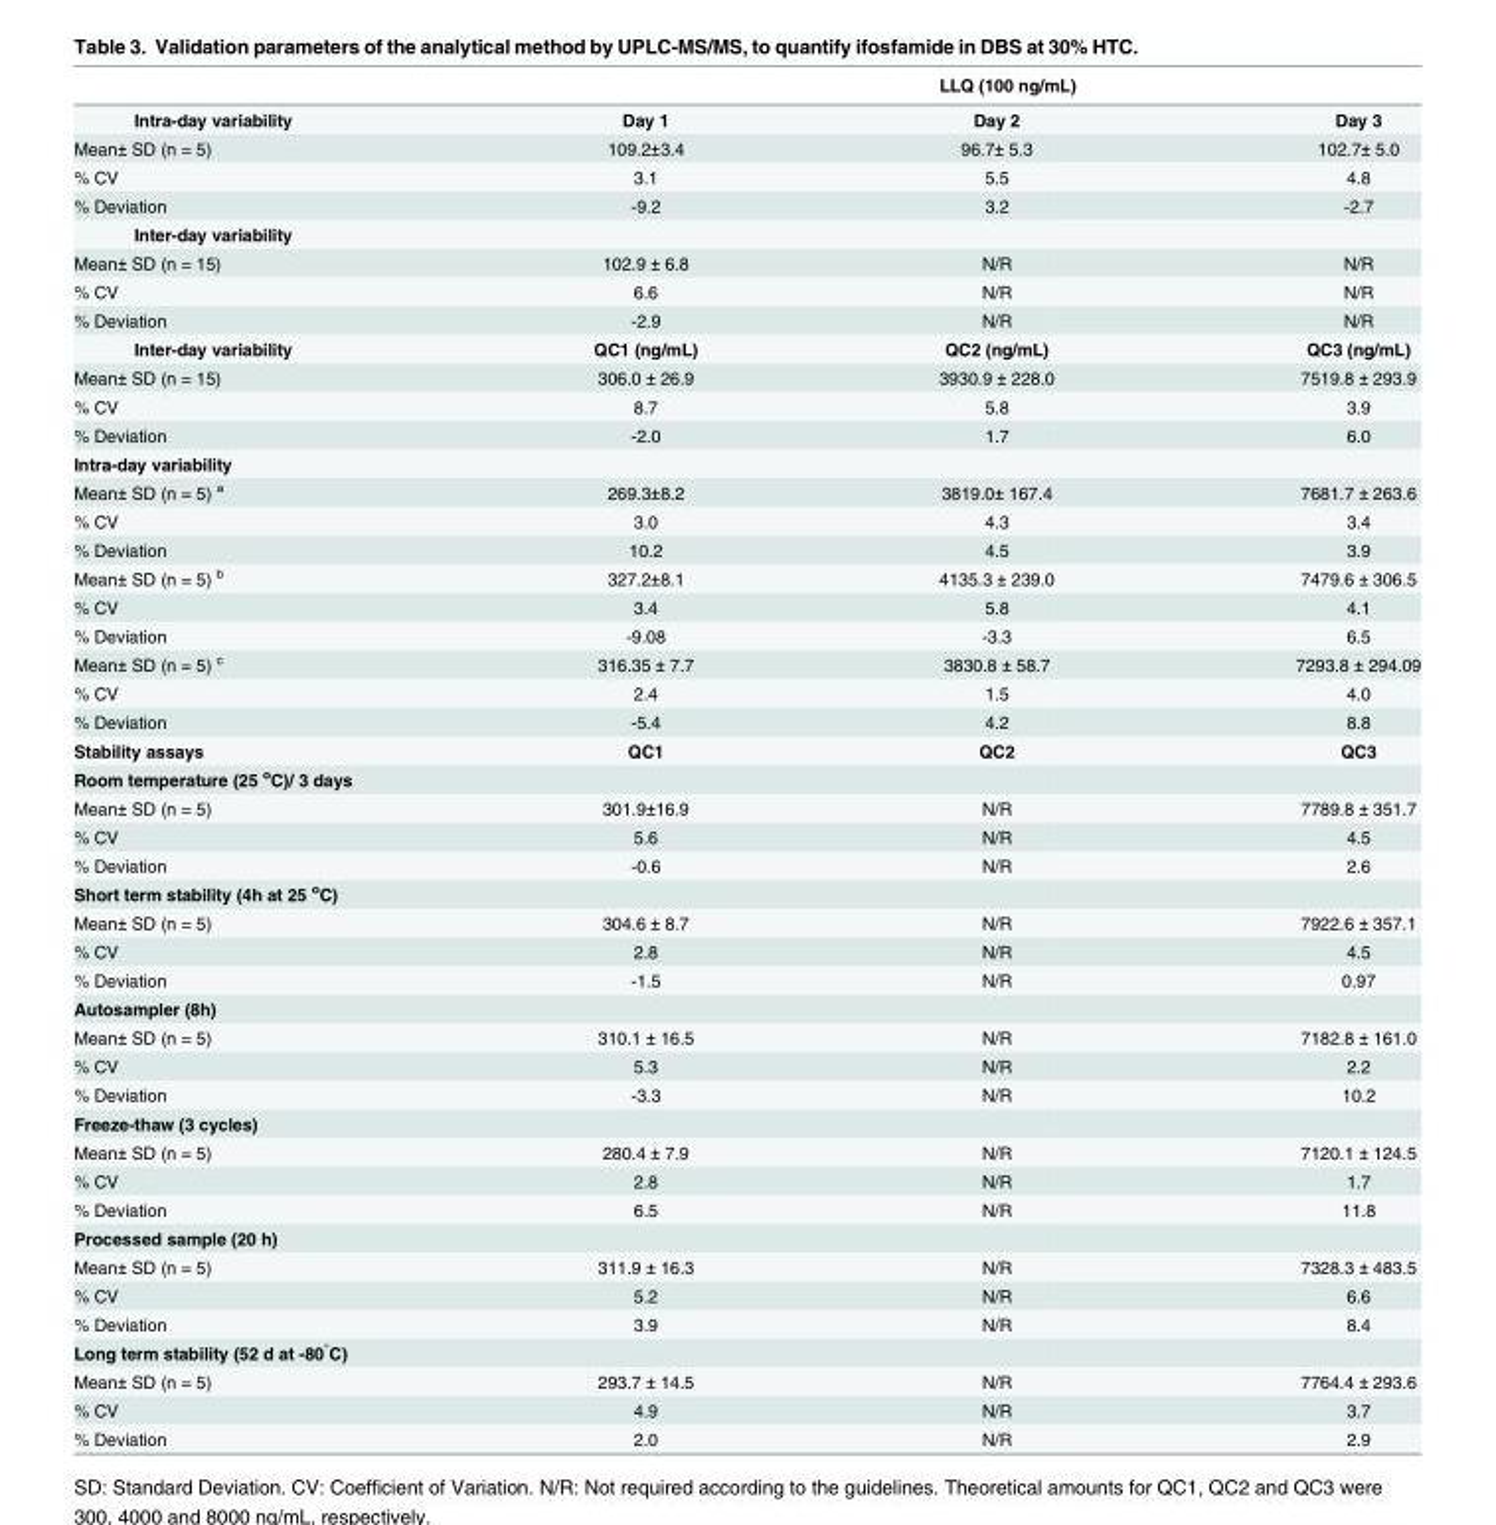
<table><thead><tr><td rowspan="2">Intra-day variability</td><td colspan="3">LLQ (100 ng/mL)</td></tr><tr><td>Day 1</td><td>Day 2</td><td>Day 3</td></tr></thead><tbody><tr><td>Mean± SD (n = 5)</td><td>109.2±3.4</td><td>96.7± 5.3</td><td>102.7± 5.0</td></tr><tr><td>% CV</td><td>3.1</td><td>5.5</td><td>4.8</td></tr><tr><td>% Deviation</td><td>-9.2</td><td>3.2</td><td>-2.7</td></tr><tr><td colspan="4">Inter-day variability</td></tr><tr><td>Mean± SD (n = 15)</td><td>102.9 ± 6.8</td><td>N/R</td><td>N/R</td></tr><tr><td>% CV</td><td>6.6</td><td>N/R</td><td>N/R</td></tr><tr><td>% Deviation</td><td>-2.9</td><td>N/R</td><td>N/R</td></tr><tr><td>Inter-day variability</td><td>QC1 (ng/mL)</td><td>QC2 (ng/mL)</td><td>QC3 (ng/mL)</td></tr><tr><td>Mean± SD (n = 15)</td><td>306.0 ± 26.9</td><td>3930.9 ± 228.0</td><td>7519.8 ± 293.9</td></tr><tr><td>% CV</td><td>8.7</td><td>5.8</td><td>3.9</td></tr><tr><td>% Deviation</td><td>-2.0</td><td>1.7</td><td>6.0</td></tr><tr><td colspan="4">Intra-day variability</td></tr><tr><td>Mean± SD (n = 5) <sup>a</sup></td><td>269.3±8.2</td><td>3819.0± 167.4</td><td>7681.7 ± 263.6</td></tr><tr><td>% CV</td><td>3.0</td><td>4.3</td><td>3.4</td></tr><tr><td>% Deviation</td><td>10.2</td><td>4.5</td><td>3.9</td></tr><tr><td>Mean± SD (n = 5) <sup>b</sup></td><td>327.2±8.1</td><td>4135.3 ± 239.0</td><td>7479.6 ± 306.5</td></tr><tr><td>% CV</td><td>3.4</td><td>5.8</td><td>4.1</td></tr><tr><td>% Deviation</td><td>-9.08</td><td>-3.3</td><td>6.5</td></tr><tr><td>Mean± SD (n = 5) <sup>c</sup></td><td>316.35 ± 7.7</td><td>3830.8 ± 58.7</td><td>7293.8 ± 294.09</td></tr><tr><td>% CV</td><td>2.4</td><td>1.5</td><td>4.0</td></tr><tr><td>% Deviation</td><td>-5.4</td><td>4.2</td><td>8.8</td></tr><tr><td>Stability assays</td><td>QC1</td><td>QC2</td><td>QC3</td></tr><tr><td colspan="4">Room temperature (25 <sup>o</sup>C)/ 3 days</td></tr><tr><td>Mean± SD (n = 5)</td><td>301.9±16.9</td><td>N/R</td><td>7789.8 ± 351.7</td></tr><tr><td>% CV</td><td>5.6</td><td>N/R</td><td>4.5</td></tr><tr><td>% Deviation</td><td>-0.6</td><td>N/R</td><td>2.6</td></tr><tr><td colspan="4">Short term stability (4h at 25 <sup>o</sup>C)</td></tr><tr><td>Mean± SD (n = 5)</td><td>304.6 ± 8.7</td><td>N/R</td><td>7922.6 ± 357.1</td></tr><tr><td>% CV</td><td>2.8</td><td>N/R</td><td>4.5</td></tr><tr><td>% Deviation</td><td>-1.5</td><td>N/R</td><td>0.97</td></tr><tr><td colspan="4">Autosampler (8h)</td></tr><tr><td>Mean± SD (n = 5)</td><td>310.1 ± 16.5</td><td>N/R</td><td>7182.8 ± 161.0</td></tr><tr><td>% CV</td><td>5.3</td><td>N/R</td><td>2.2</td></tr><tr><td>% Deviation</td><td>-3.3</td><td>N/R</td><td>10.2</td></tr><tr><td colspan="4">Freeze-thaw (3 cycles)</td></tr><tr><td>Mean± SD (n = 5)</td><td>280.4 ± 7.9</td><td>N/R</td><td>7120.1 ± 124.5</td></tr><tr><td>% CV</td><td>2.8</td><td>N/R</td><td>1.7</td></tr><tr><td>% Deviation</td><td>6.5</td><td>N/R</td><td>11.8</td></tr><tr><td colspan="4">Processed sample (20 h)</td></tr><tr><td>Mean± SD (n = 5)</td><td>311.9 ± 16.3</td><td>N/R</td><td>7328.3 ± 483.5</td></tr><tr><td>% CV</td><td>5.2</td><td>N/R</td><td>6.6</td></tr><tr><td>% Deviation</td><td>3.9</td><td>N/R</td><td>8.4</td></tr><tr><td colspan="4">Long term stability (52 d at -80<sup>°</sup>C)</td></tr><tr><td>Mean± SD (n = 5)</td><td>293.7 ± 14.5</td><td>N/R</td><td>7764.4 ± 293.6</td></tr><tr><td>% CV</td><td>4.9</td><td>N/R</td><td>3.7</td></tr><tr><td>% Deviation</td><td>2.0</td><td>N/R</td><td>2.9</td></tr></tbody></table>